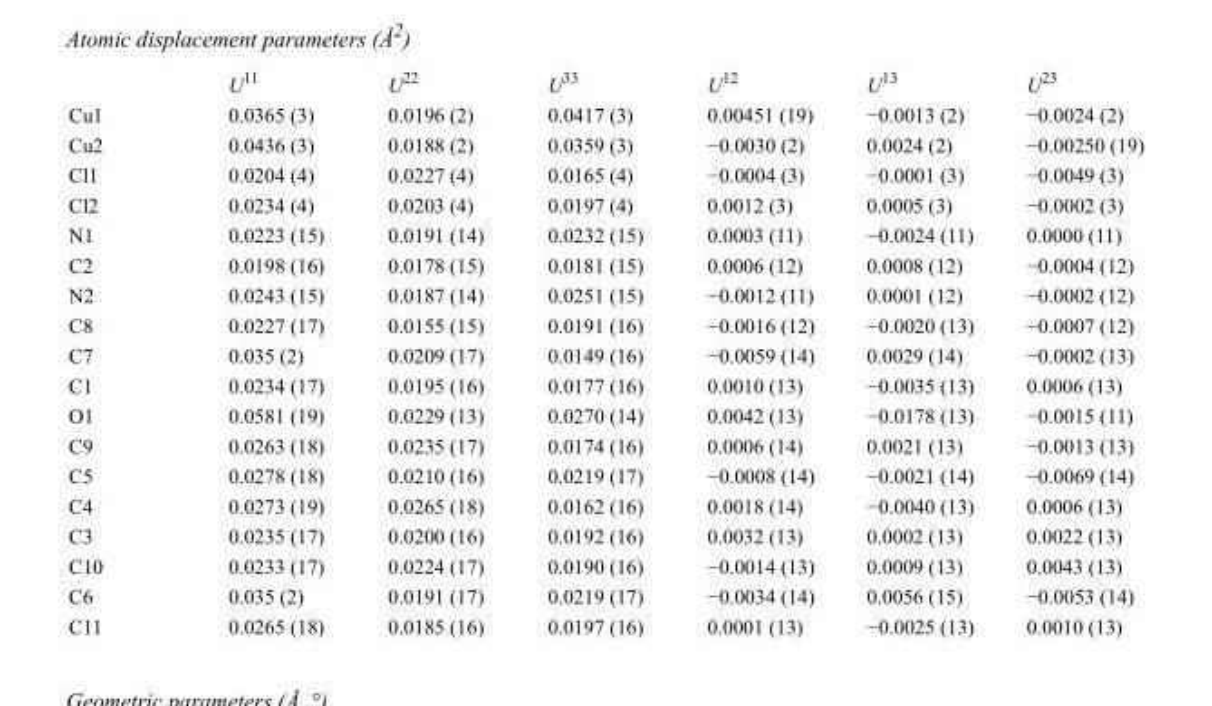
<table><thead><tr><td></td><td>U<sup>11</sup></td><td>U<sup>22</sup></td><td>U<sup>33</sup></td><td>U<sup>12</sup></td><td>U<sup>13</sup></td><td>U<sup>23</sup></td></tr></thead><tbody><tr><td>Cu1</td><td>0.0365 (3)</td><td>0.0196 (2)</td><td>0.0417 (3)</td><td>0.00451 (19)</td><td>−0.0013 (2)</td><td>−0.0024 (2)</td></tr><tr><td>Cu2</td><td>0.0436 (3)</td><td>0.0188 (2)</td><td>0.0359 (3)</td><td>−0.0030 (2)</td><td>0.0024 (2)</td><td>−0.00250 (19)</td></tr><tr><td>Cl1</td><td>0.0204 (4)</td><td>0.0227 (4)</td><td>0.0165 (4)</td><td>−0.0004 (3)</td><td>−0.0001 (3)</td><td>−0.0049 (3)</td></tr><tr><td>Cl2</td><td>0.0234 (4)</td><td>0.0203 (4)</td><td>0.0197 (4)</td><td>0.0012 (3)</td><td>0.0005 (3)</td><td>−0.0002 (3)</td></tr><tr><td>N1</td><td>0.0223 (15)</td><td>0.0191 (14)</td><td>0.0232 (15)</td><td>0.0003 (11)</td><td>−0.0024 (11)</td><td>0.0000 (11)</td></tr><tr><td>C2</td><td>0.0198 (16)</td><td>0.0178 (15)</td><td>0.0181 (15)</td><td>0.0006 (12)</td><td>0.0008 (12)</td><td>−0.0004 (12)</td></tr><tr><td>N2</td><td>0.0243 (15)</td><td>0.0187 (14)</td><td>0.0251 (15)</td><td>−0.0012 (11)</td><td>0.0001 (12)</td><td>−0.0002 (12)</td></tr><tr><td>C8</td><td>0.0227 (17)</td><td>0.0155 (15)</td><td>0.0191 (16)</td><td>−0.0016 (12)</td><td>−0.0020 (13)</td><td>−0.0007 (12)</td></tr><tr><td>C7</td><td>0.035 (2)</td><td>0.0209 (17)</td><td>0.0149 (16)</td><td>−0.0059 (14)</td><td>0.0029 (14)</td><td>−0.0002 (13)</td></tr><tr><td>C1</td><td>0.0234 (17)</td><td>0.0195 (16)</td><td>0.0177 (16)</td><td>0.0010 (13)</td><td>−0.0035 (13)</td><td>0.0006 (13)</td></tr><tr><td>O1</td><td>0.0581 (19)</td><td>0.0229 (13)</td><td>0.0270 (14)</td><td>0.0042 (13)</td><td>−0.0178 (13)</td><td>−0.0015 (11)</td></tr><tr><td>C9</td><td>0.0263 (18)</td><td>0.0235 (17)</td><td>0.0174 (16)</td><td>0.0006 (14)</td><td>0.0021 (13)</td><td>−0.0013 (13)</td></tr><tr><td>C5</td><td>0.0278 (18)</td><td>0.0210 (16)</td><td>0.0219 (17)</td><td>−0.0008 (14)</td><td>−0.0021 (14)</td><td>−0.0069 (14)</td></tr><tr><td>C4</td><td>0.0273 (19)</td><td>0.0265 (18)</td><td>0.0162 (16)</td><td>0.0018 (14)</td><td>−0.0040 (13)</td><td>0.0006 (13)</td></tr><tr><td>C3</td><td>0.0235 (17)</td><td>0.0200 (16)</td><td>0.0192 (16)</td><td>0.0032 (13)</td><td>0.0002 (13)</td><td>0.0022 (13)</td></tr><tr><td>C10</td><td>0.0233 (17)</td><td>0.0224 (17)</td><td>0.0190 (16)</td><td>−0.0014 (13)</td><td>0.0009 (13)</td><td>0.0043 (13)</td></tr><tr><td>C6</td><td>0.035 (2)</td><td>0.0191 (17)</td><td>0.0219 (17)</td><td>−0.0034 (14)</td><td>0.0056 (15)</td><td>−0.0053 (14)</td></tr><tr><td>C11</td><td>0.0265 (18)</td><td>0.0185 (16)</td><td>0.0197 (16)</td><td>0.0001 (13)</td><td>−0.0025 (13)</td><td>0.0010 (13)</td></tr></tbody></table>